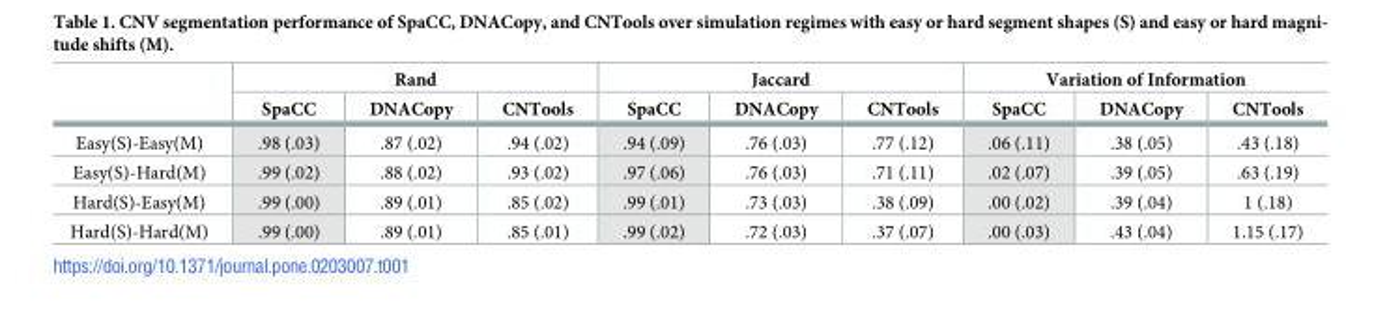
<table><thead><tr><td rowspan="2"></td><td colspan="3">Rand</td><td colspan="3">Jaccard</td><td colspan="3">Variation of Information</td></tr><tr><td>SpaCC</td><td>DNACopy</td><td>CNTools</td><td>SpaCC</td><td>DNACopy</td><td>CNTools</td><td>SpaCC</td><td>DNACopy</td><td>CNTools</td></tr></thead><tbody><tr><td>Easy(S)-Easy(M)</td><td>.98 (.03)</td><td>.87 (.02)</td><td>.94 (.02)</td><td>.94 (.09)</td><td>.76 (.03)</td><td>.77 (.12)</td><td>.06 (.11)</td><td>.38 (.05)</td><td>.43 (.18)</td></tr><tr><td>Easy(S)-Hard(M)</td><td>.99 (.02)</td><td>.88 (.02)</td><td>.93 (.02)</td><td>.97 (.06)</td><td>.76 (.03)</td><td>.71 (.11)</td><td>.02 (.07)</td><td>.39 (.05)</td><td>.63 (.19)</td></tr><tr><td>Hard(S)-Easy(M)</td><td>.99 (.00)</td><td>.89 (.01)</td><td>.85 (.02)</td><td>.99 (.01)</td><td>.73 (.03)</td><td>.38 (.09)</td><td>.00 (.02)</td><td>.39 (.04)</td><td>1 (.18)</td></tr><tr><td>Hard(S)-Hard(M)</td><td>.99 (.00)</td><td>.89 (.01)</td><td>.85 (.01)</td><td>.99 (.02)</td><td>.72 (.03)</td><td>.37 (.07)</td><td>.00 (.03)</td><td>.43 (.04)</td><td>1.15 (.17)</td></tr></tbody></table>